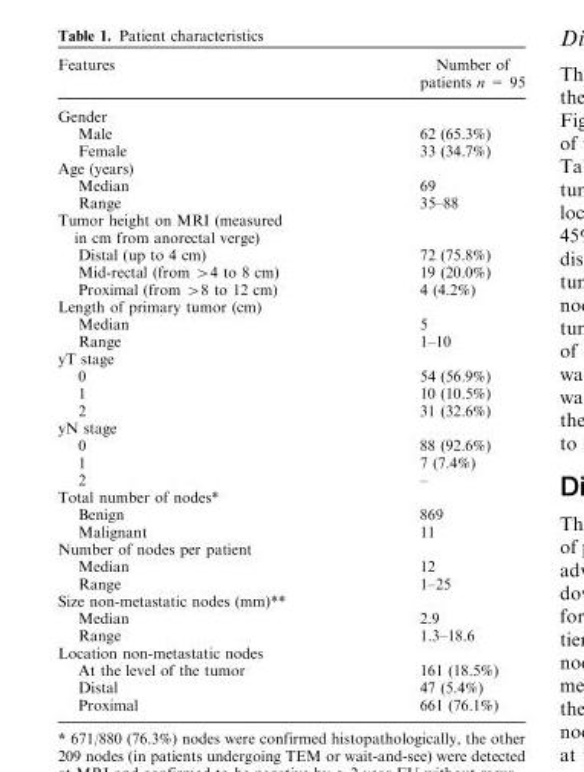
<table><thead><tr><td>Features</td><td>Number of patients n = 95</td></tr></thead><tbody><tr><td colspan="2">Gender</td></tr><tr><td>Male</td><td>62 (65.3%)</td></tr><tr><td>Female</td><td>33 (34.7%)</td></tr><tr><td colspan="2">Age (years)</td></tr><tr><td>Median</td><td>69</td></tr><tr><td>Range</td><td>35–88</td></tr><tr><td colspan="2">Tumor height on MRI (measured in cm from anorectal verge)</td></tr><tr><td>Distal (up to 4 cm)</td><td>72 (75.8%)</td></tr><tr><td>Mid-rectal (from &gt;4 to 8 cm)</td><td>19 (20.0%)</td></tr><tr><td>Proximal (from &gt;8 to 12 cm)</td><td>4 (4.2%)</td></tr><tr><td colspan="2">Length of primary tumor (cm)</td></tr><tr><td>Median</td><td>5</td></tr><tr><td>Range</td><td>1–10</td></tr><tr><td colspan="2">yT stage</td></tr><tr><td>0</td><td>54 (56.9%)</td></tr><tr><td>1</td><td>10 (10.5%)</td></tr><tr><td>2</td><td>31 (32.6%)</td></tr><tr><td colspan="2">yN stage</td></tr><tr><td>0</td><td>88 (92.6%)</td></tr><tr><td>1</td><td>7 (7.4%)</td></tr><tr><td>2</td><td>–</td></tr><tr><td colspan="2">Total number of nodes*</td></tr><tr><td>Benign</td><td>869</td></tr><tr><td>Malignant</td><td>11</td></tr><tr><td colspan="2">Number of nodes per patient</td></tr><tr><td>Median</td><td>12</td></tr><tr><td>Range</td><td>1–25</td></tr><tr><td colspan="2">Size non-metastatic nodes (mm)**</td></tr><tr><td>Median</td><td>2.9</td></tr><tr><td>Range</td><td>1.3–18.6</td></tr><tr><td colspan="2">Location non-metastatic nodes</td></tr><tr><td>At the level of the tumor</td><td>161 (18.5%)</td></tr><tr><td>Distal</td><td>47 (5.4%)</td></tr><tr><td>Proximal</td><td>661 (76.1%)</td></tr></tbody></table>